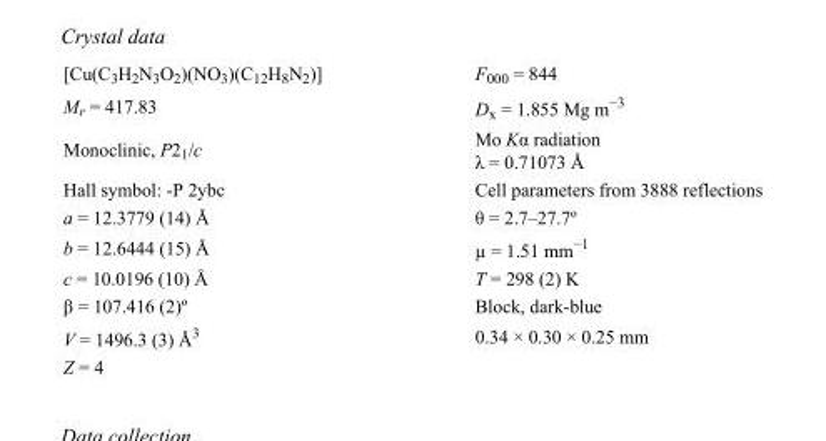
<table><tbody><tr><td>[Cu(C<sub>3</sub>H<sub>2</sub>N<sub>3</sub>O<sub>2</sub>)(NO<sub>3</sub>)(C<sub>12</sub>H<sub>8</sub>N<sub>2</sub>)]</td><td>F<sub>000</sub> = 844</td></tr><tr><td>M<sub>r</sub> = 417.83</td><td>D<sub>x</sub> = 1.855 Mg m<sup>−3</sup></td></tr><tr><td>Monoclinic, P2<sub>1</sub>/c</td><td>Mo Kα radiation λ = 0.71073 Å</td></tr><tr><td>Hall symbol: -P 2ybc</td><td>Cell parameters from 3888 reflections</td></tr><tr><td>a = 12.3779 (14) Å</td><td>θ = 2.7–27.7º</td></tr><tr><td>b = 12.6444 (15) Å</td><td>µ = 1.51 mm<sup>−1</sup></td></tr><tr><td>c = 10.0196 (10) Å</td><td>T = 298 (2) K</td></tr><tr><td>β = 107.416 (2)º</td><td>Block, dark-blue</td></tr><tr><td>V = 1496.3 (3) Å<sup>3</sup></td><td>0.34 × 0.30 × 0.25 mm</td></tr><tr><td>Z = 4</td><td></td></tr></tbody></table>